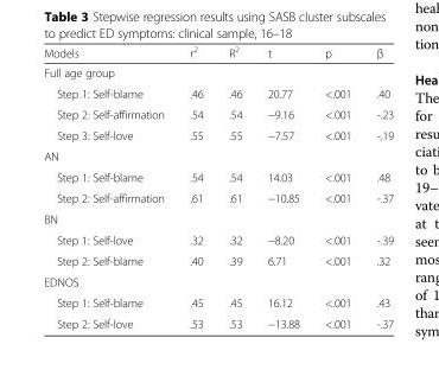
<table><thead><tr><td>Models</td><td>r<sup>2</sup></td><td>R<sup>2</sup></td><td>t</td><td>p</td><td>β</td></tr></thead><tbody><tr><td colspan="6">Full age group</td></tr><tr><td>Step 1: Self-blame</td><td>.46</td><td>.46</td><td>20.77</td><td>&lt;.001</td><td>.40</td></tr><tr><td>Step 2: Self-affirmation</td><td>.54</td><td>.54</td><td>−9.16</td><td>&lt;.001</td><td>-.23</td></tr><tr><td>Step 3: Self-love</td><td>.55</td><td>.55</td><td>−7.57</td><td>&lt;.001</td><td>-.19</td></tr><tr><td colspan="6">AN</td></tr><tr><td>Step 1: Self-blame</td><td>.54</td><td>.54</td><td>14.03</td><td>&lt;.001</td><td>.48</td></tr><tr><td>Step 2: Self-affirmation</td><td>.61</td><td>.61</td><td>−10.85</td><td>&lt;.001</td><td>-.37</td></tr><tr><td colspan="6">BN</td></tr><tr><td>Step 1: Self-love</td><td>.32</td><td>.32</td><td>−8.20</td><td>&lt;.001</td><td>-.39</td></tr><tr><td>Step 2: Self-blame</td><td>.40</td><td>.39</td><td>6.71</td><td>&lt;.001</td><td>.32</td></tr><tr><td colspan="6">EDNOS</td></tr><tr><td>Step 1: Self-blame</td><td>.45</td><td>.45</td><td>16.12</td><td>&lt;.001</td><td>.43</td></tr><tr><td>Step 2: Self-love</td><td>.53</td><td>.53</td><td>−13.88</td><td>&lt;.001</td><td>-.37</td></tr></tbody></table>